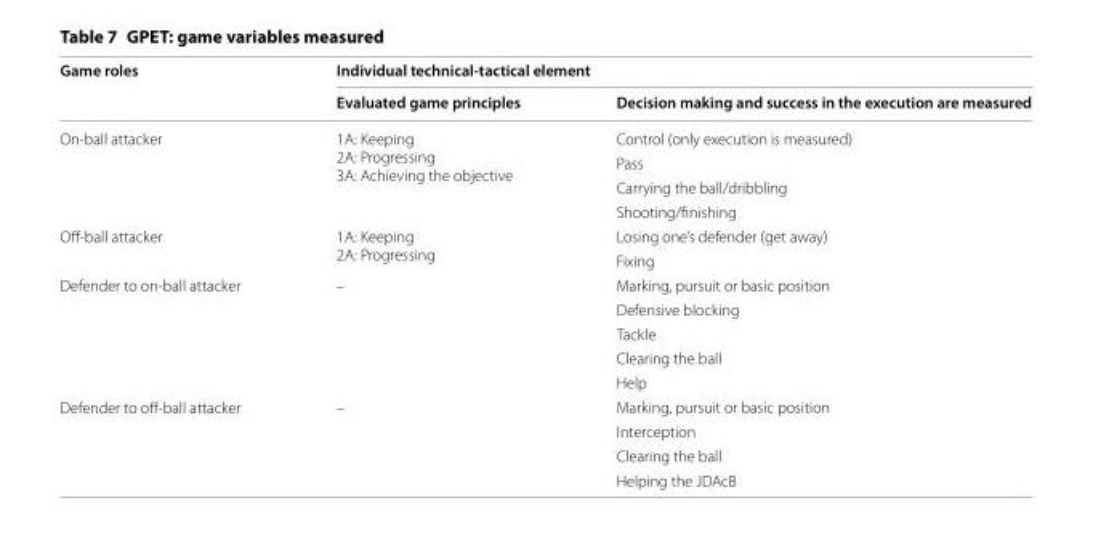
<table><thead><tr><td rowspan="2">Game roles</td><td colspan="2">Individual technical-tactical element</td></tr><tr><td>Evaluated game principles</td><td>Decision making and success in the execution are measured</td></tr></thead><tbody><tr><td rowspan="4">On‑ball attacker</td><td rowspan="4">1A: Keeping 2A: Progressing 3A: Achieving the objective</td><td>Control (only execution is measured)</td></tr><tr><td>Pass</td></tr><tr><td>Carrying the ball/dribbling</td></tr><tr><td>Shooting/finishing</td></tr><tr><td rowspan="2">Off‑ball attacker</td><td rowspan="2">1A: Keeping 2A: Progressing</td><td>Losing one’s defender (get away)</td></tr><tr><td>Fixing</td></tr><tr><td rowspan="5">Defender to on‑ball attacker</td><td rowspan="5">–</td><td>Marking, pursuit or basic position</td></tr><tr><td>Defensive blocking</td></tr><tr><td>Tackle</td></tr><tr><td>Clearing the ball</td></tr><tr><td>Help</td></tr><tr><td rowspan="4">Defender to off‑ball attacker</td><td rowspan="4">–</td><td>Marking, pursuit or basic position</td></tr><tr><td>Interception</td></tr><tr><td>Clearing the ball</td></tr><tr><td>Helping the JDAcB</td></tr></tbody></table>